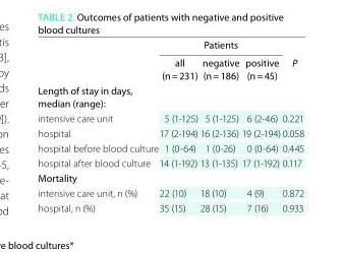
<table><thead><tr><td rowspan="2"></td><td colspan="3">Patients</td><td rowspan="2">P</td></tr><tr><td>all (n = 231)</td><td>negative (n = 186)</td><td>positive (n = 45)</td></tr></thead><tbody><tr><td colspan="5">length of stay in days, median (range):</td></tr><tr><td>intensive care unit</td><td>5 (1-125)</td><td>5 (1-125)</td><td>6 (2-46)</td><td>0.221</td></tr><tr><td>hospital</td><td>17 (2-194)</td><td>16 (2-136)</td><td>19 (2-194)</td><td>0.058</td></tr><tr><td>hospital before blood culture</td><td>1 (0-64)</td><td>1 (0-26)</td><td>0 (0-64)</td><td>0.445</td></tr><tr><td>hospital after blood culture</td><td>14 (1-192)</td><td>13 (1-135)</td><td>17 (1-192)</td><td>0.117</td></tr><tr><td colspan="5">Mortality</td></tr><tr><td>intensive care unit, n (%)</td><td>22 (10)</td><td>18 (10)</td><td>4 (9)</td><td>0.872</td></tr><tr><td>hospital, n (%)</td><td>35 (15)</td><td>28 (15)</td><td>7 (16)</td><td>0.933</td></tr></tbody></table>